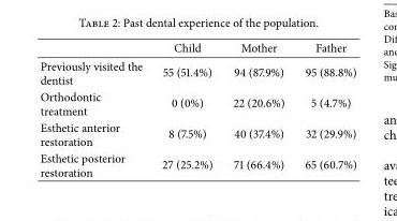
<table><thead><tr><td></td><td>Child</td><td>Mother</td><td>Father</td></tr></thead><tbody><tr><td>Previously visited the dentist</td><td>55 (51.4%)</td><td>94 (87.9%)</td><td>95 (88.8%)</td></tr><tr><td>Orthodontic treatment</td><td>0 (0%)</td><td>22 (20.6%)</td><td>5 (4.7%)</td></tr><tr><td>Esthetic anterior restoration</td><td>8 (7.5%)</td><td>40 (37.4%)</td><td>32 (29.9%)</td></tr><tr><td>Esthetic posterior restoration</td><td>27 (25.2%)</td><td>71 (66.4%)</td><td>65 (60.7%)</td></tr></tbody></table>